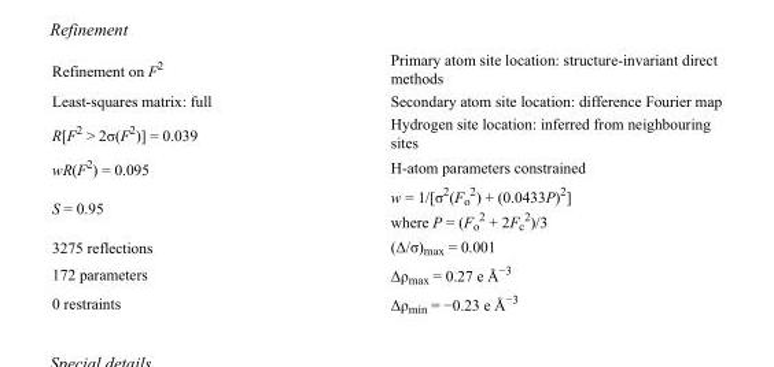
<table><tbody><tr><td>Refinement on F<sup>2</sup></td><td>Primary atom site location: structure-invariant direct methods</td></tr><tr><td>Least-squares matrix: full</td><td>Secondary atom site location: difference Fourier map</td></tr><tr><td>R[F<sup>2</sup> &gt; 2σ(F<sup>2</sup>)] = 0.039</td><td>Hydrogen site location: inferred from neighbouring sites</td></tr><tr><td>wR(F<sup>2</sup>) = 0.095</td><td>H-atom parameters constrained</td></tr><tr><td>S = 0.95</td><td>w = 1/[σ<sup>2</sup>(F<sub>o</sub> <sup>2</sup>) + (0.0433P)<sup>2</sup>] where P = (F<sub>o</sub> <sup>2</sup> + 2F<sub>c</sub> <sup>2</sup>)/3</td></tr><tr><td>3275 reflections</td><td>(Δ/σ)<sub>max</sub> = 0.001</td></tr><tr><td>172 parameters</td><td>Δρ<sub>max</sub> = 0.27 e Å<sup>−3</sup></td></tr><tr><td>0 restraints</td><td>Δρ<sub>min</sub> = −0.23 e Å<sup>−3</sup></td></tr></tbody></table>